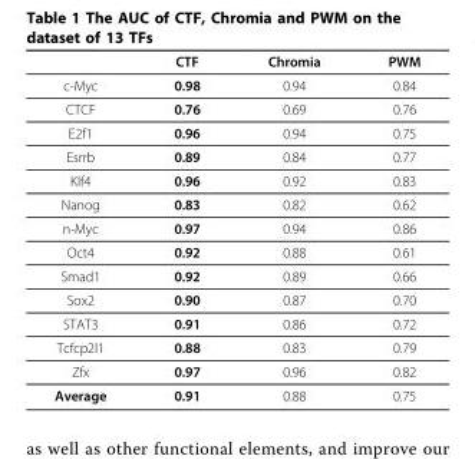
<table><thead><tr><td></td><td>CTF</td><td>Chromia</td><td>PWM</td></tr></thead><tbody><tr><td>c-Myc</td><td>0.98</td><td>0.94</td><td>0.84</td></tr><tr><td>CTCF</td><td>0.76</td><td>0.69</td><td>0.76</td></tr><tr><td>E2f1</td><td>0.96</td><td>0.94</td><td>0.75</td></tr><tr><td>Esrrb</td><td>0.89</td><td>0.84</td><td>0.77</td></tr><tr><td>Klf4</td><td>0.96</td><td>0.92</td><td>0.83</td></tr><tr><td>Nanog</td><td>0.83</td><td>0.82</td><td>0.62</td></tr><tr><td>n-Myc</td><td>0.97</td><td>0.94</td><td>0.86</td></tr><tr><td>Oct4</td><td>0.92</td><td>0.88</td><td>0.61</td></tr><tr><td>Smad1</td><td>0.92</td><td>0.89</td><td>0.66</td></tr><tr><td>Sox2</td><td>0.90</td><td>0.87</td><td>0.70</td></tr><tr><td>STAT3</td><td>0.91</td><td>0.86</td><td>0.72</td></tr><tr><td>Tcfcp2l1</td><td>0.88</td><td>0.83</td><td>0.79</td></tr><tr><td>Zfx</td><td>0.97</td><td>0.96</td><td>0.82</td></tr><tr><td>Average</td><td>0.91</td><td>0.88</td><td>0.75</td></tr></tbody></table>